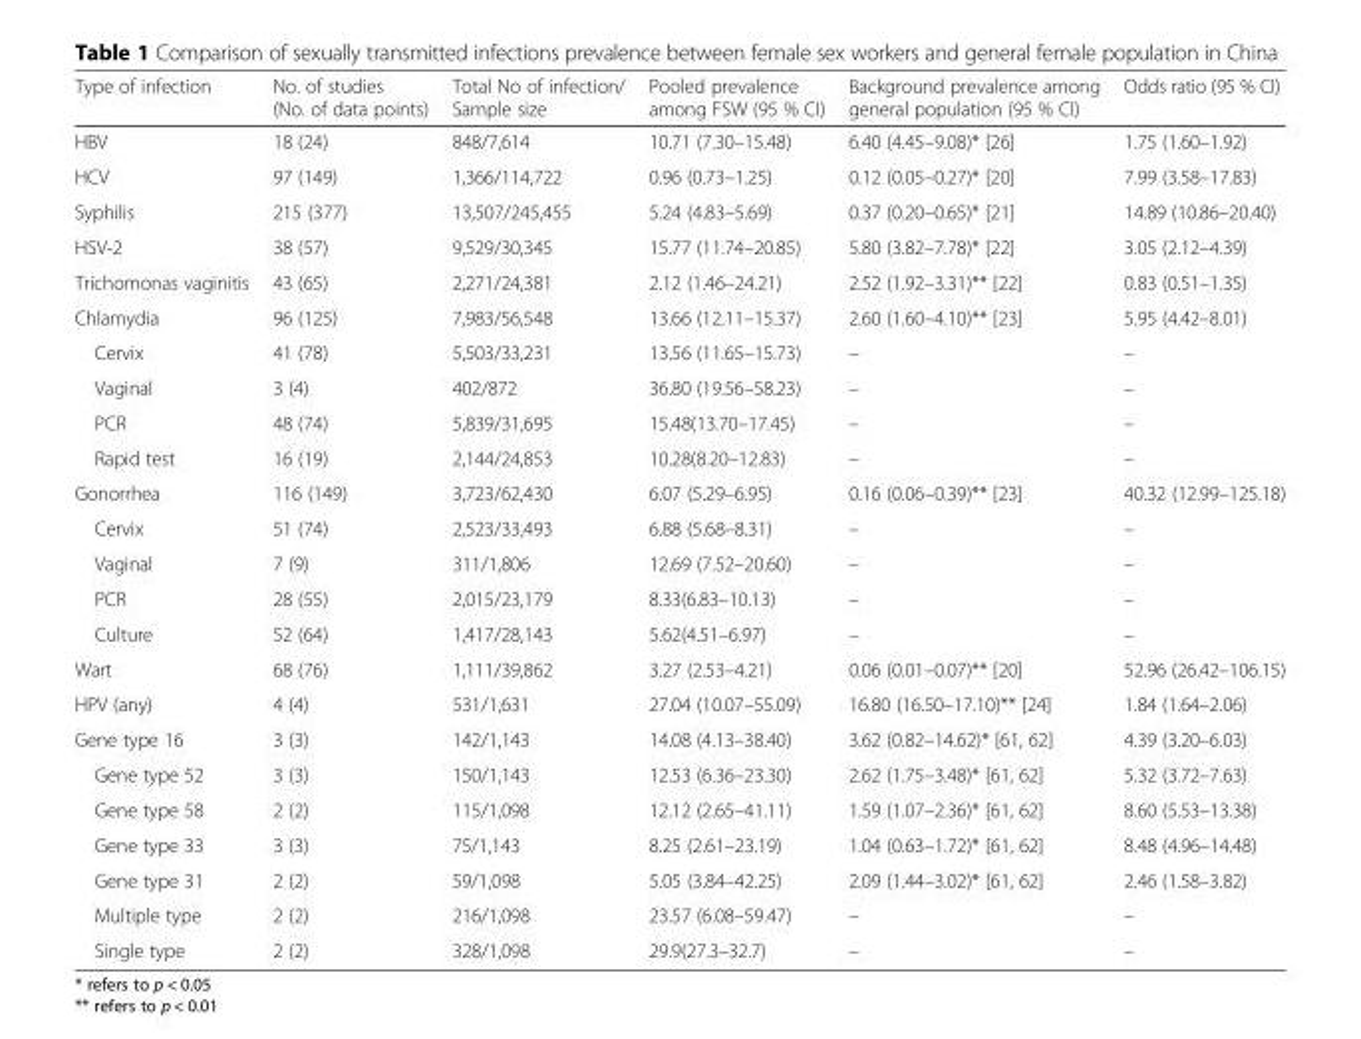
<table><thead><tr><td>Type of infection</td><td>No. of studies (No. of data points)</td><td>Total No of infection/ Sample size</td><td>Pooled prevalence among FSW (95 % CI)</td><td>Background prevalence among general population (95 % CI)</td><td>Odds ratio (95 % CI)</td></tr></thead><tbody><tr><td>HBV</td><td>18 (24)</td><td>848/7,614</td><td>10.71 (7.30–15.48)</td><td>6.40 (4.45–9.08)* [26]</td><td>1.75 (1.60–1.92)</td></tr><tr><td>HCV</td><td>97 (149)</td><td>1,366/114,722</td><td>0.96 (0.73–1.25)</td><td>0.12 (0.05–0.27)* [20]</td><td>7.99 (3.58–17.83)</td></tr><tr><td>Syphilis</td><td>215 (377)</td><td>13,507/245,455</td><td>5.24 (4.83–5.69)</td><td>0.37 (0.20–0.65)* [21]</td><td>14.89 (10.86–20.40)</td></tr><tr><td>HSV-2</td><td>38 (57)</td><td>9,529/30,345</td><td>15.77 (11.74–20.85)</td><td>5.80 (3.82–7.78)* [22]</td><td>3.05 (2.12–4.39)</td></tr><tr><td>Trichomonas vaginitis</td><td>43 (65)</td><td>2,271/24,381</td><td>2.12 (1.46–24.21)</td><td>2.52 (1.92–3.31)** [22]</td><td>0.83 (0.51–1.35)</td></tr><tr><td>Chlamydia</td><td>96 (125)</td><td>7,983/56,548</td><td>13.66 (12.11–15.37)</td><td>2.60 (1.60–4.10)** [23]</td><td>5.95 (4.42–8.01)</td></tr><tr><td>Cervix</td><td>41 (78)</td><td>5,503/33,231</td><td>13.56 (11.65–15.73)</td><td>–</td><td>–</td></tr><tr><td>Vaginal</td><td>3 (4)</td><td>402/872</td><td>36.80 (19.56–58.23)</td><td>–</td><td>–</td></tr><tr><td>PCR</td><td>48 (74)</td><td>5,839/31,695</td><td>15.48(13.70–17.45)</td><td>–</td><td>–</td></tr><tr><td>Rapid test</td><td>16 (19)</td><td>2,144/24,853</td><td>10.28(8.20–12.83)</td><td>–</td><td>–</td></tr><tr><td>Gonorrhea</td><td>116 (149)</td><td>3,723/62,430</td><td>6.07 (5.29–6.95)</td><td>0.16 (0.06–0.39)** [23]</td><td>40.32 (12.99–125.18)</td></tr><tr><td>Cervix</td><td>51 (74)</td><td>2,523/33,493</td><td>6.88 (5.68–8.31)</td><td>–</td><td>–</td></tr><tr><td>Vaginal</td><td>7 (9)</td><td>311/1,806</td><td>12.69 (7.52–20.60)</td><td>–</td><td>–</td></tr><tr><td>PCR</td><td>28 (55)</td><td>2,015/23,179</td><td>8.33(6.83–10.13)</td><td>–</td><td>–</td></tr><tr><td>Culture</td><td>52 (64)</td><td>1,417/28,143</td><td>5.62(4.51–6.97)</td><td>–</td><td>–</td></tr><tr><td>Wart</td><td>68 (76)</td><td>1,111/39,862</td><td>3.27 (2.53–4.21)</td><td>0.06 (0.01–0.07)** [20]</td><td>52.96 (26.42–106.15)</td></tr><tr><td>HPV (any)</td><td>4 (4)</td><td>531/1,631</td><td>27.04 (10.07–55.09)</td><td>16.80 (16.50–17.10)** [24]</td><td>1.84 (1.64–2.06)</td></tr><tr><td>Gene type 16</td><td>3 (3)</td><td>142/1,143</td><td>14.08 (4.13–38.40)</td><td>3.62 (0.82–14.62)* [61, 62]</td><td>4.39 (3.20–6.03)</td></tr><tr><td>Gene type 52</td><td>3 (3)</td><td>150/1,143</td><td>12.53 (6.36–23.30)</td><td>2.62 (1.75–3.48)* [61, 62]</td><td>5.32 (3.72–7.63)</td></tr><tr><td>Gene type 58</td><td>2 (2)</td><td>115/1,098</td><td>12.12 (2.65–41.11)</td><td>1.59 (1.07–2.36)* [61, 62]</td><td>8.60 (5.53–13.38)</td></tr><tr><td>Gene type 33</td><td>3 (3)</td><td>75/1,143</td><td>8.25 (2.61–23.19)</td><td>1.04 (0.63–1.72)* [61, 62]</td><td>8.48 (4.96–14.48)</td></tr><tr><td>Gene type 31</td><td>2 (2)</td><td>59/1,098</td><td>5.05 (3.84–42.25)</td><td>2.09 (1.44–3.02)* [61, 62]</td><td>2.46 (1.58–3.82)</td></tr><tr><td>Multiple type</td><td>2 (2)</td><td>216/1,098</td><td>23.57 (6.08–59.47)</td><td>–</td><td>–</td></tr><tr><td>Single type</td><td>2 (2)</td><td>328/1,098</td><td>29.9(27.3–32.7)</td><td>–</td><td>–</td></tr></tbody></table>